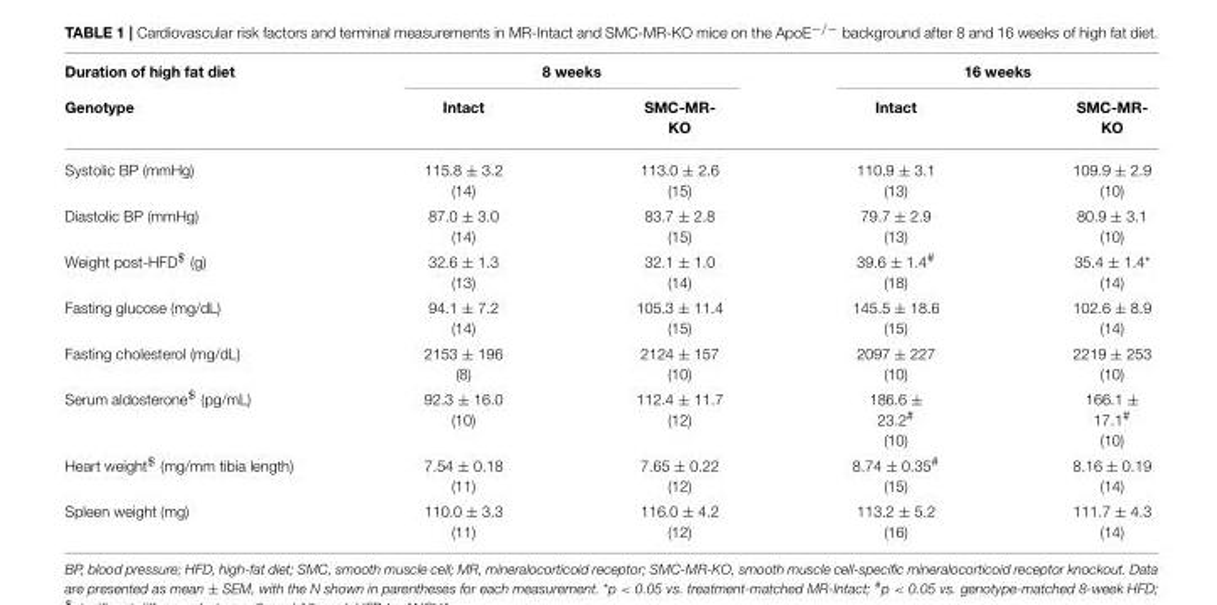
<table><thead><tr><td rowspan="2">Duration of high fat diet Genotype</td><td colspan="2">8 weeks</td><td colspan="2">16 weeks</td></tr><tr><td>Intact</td><td>SMC-MR- KO</td><td>Intact</td><td>SMC-MR- KO</td></tr></thead><tbody><tr><td>Systolic BP (mmHg)</td><td>115.8 ± 3.2 (14)</td><td>113.0 ± 2.6 (15)</td><td>110.9 ± 3.1 (13)</td><td>109.9 ± 2.9 (10)</td></tr><tr><td>Diastolic BP (mmHg)</td><td>87.0 ± 3.0 (14)</td><td>83.7 ± 2.8 (15)</td><td>79.7 ± 2.9 (13)</td><td>80.9 ± 3.1 (10)</td></tr><tr><td>Weight post-HFD<sup>$</sup> (g)</td><td>32.6 ± 1.3 (13)</td><td>32.1 ± 1.0 (14)</td><td>39.6 ± 1.4<sup>#</sup> (18)</td><td>35.4 ± 1.4* (14)</td></tr><tr><td>Fasting glucose (mg/dL)</td><td>94.1 ± 7.2 (14)</td><td>105.3 ± 11.4 (15)</td><td>145.5 ± 18.6 (15)</td><td>102.6 ± 8.9 (14)</td></tr><tr><td>Fasting cholesterol (mg/dL)</td><td>2153 ± 196 (8)</td><td>2124 ± 157 (10)</td><td>2097 ± 227 (10)</td><td>2219 ± 253 (10)</td></tr><tr><td>Serum aldosterone<sup>$</sup> (pg/mL)</td><td>92.3 ± 16.0 (10)</td><td>112.4 ± 11.7 (12)</td><td>186.6 ± 23.2<sup>#</sup> (10)</td><td>166.1 ± 17.1<sup>#</sup> (10)</td></tr><tr><td>Heart weight<sup>$</sup> (mg/mm tibia length)</td><td>7.54 ± 0.18 (11)</td><td>7.65 ± 0.22 (12)</td><td>8.74 ± 0.35<sup>#</sup> (15)</td><td>8.16 ± 0.19 (14)</td></tr><tr><td>Spleen weight (mg)</td><td>110.0 ± 3.3 (11)</td><td>116.0 ± 4.2 (12)</td><td>113.2 ± 5.2 (16)</td><td>111.7 ± 4.3 (14)</td></tr></tbody></table>